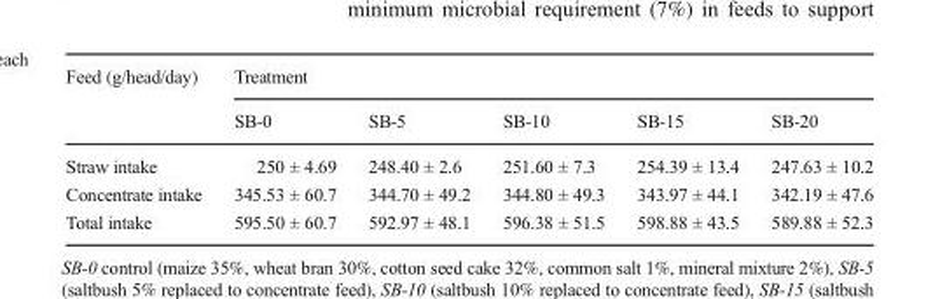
<table><thead><tr><td rowspan="2">Feed (g/head/day)</td><td colspan="5">Treatment</td></tr><tr><td>SB-0</td><td>SB-5</td><td>SB-10</td><td>SB-15</td><td>SB-20</td></tr></thead><tbody><tr><td>Straw intake</td><td>250 ± 4.69</td><td>248.40 ± 2.6</td><td>251.60 ± 7.3</td><td>254.39 ± 13.4</td><td>247.63 ± 10.2</td></tr><tr><td>Concentrate intake</td><td>345.53 ± 60.7</td><td>344.70 ± 49.2</td><td>344.80 ± 49.3</td><td>343.97 ± 44.1</td><td>342.19 ± 47.6</td></tr><tr><td>Total intake</td><td>595.50 ± 60.7</td><td>592.97 ± 48.1</td><td>596.38 ± 51.5</td><td>598.88 ± 43.5</td><td>589.88 ± 52.3</td></tr></tbody></table>